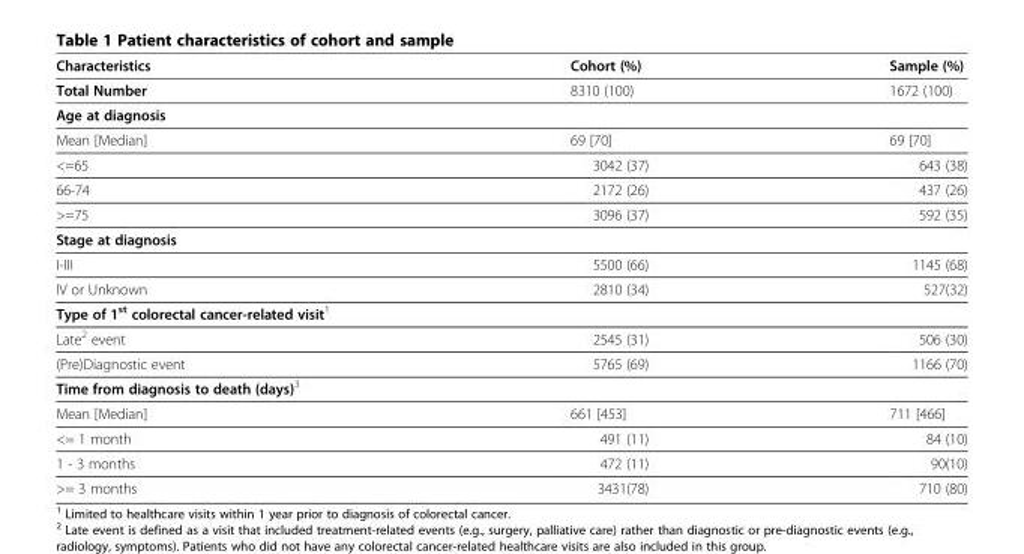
<table><thead><tr><td>Characteristics</td><td>Cohort (%)</td><td>Sample (%)</td></tr></thead><tbody><tr><td>Total Number</td><td>8310 (100)</td><td>1672 (100)</td></tr><tr><td colspan="3">Age at diagnosis</td></tr><tr><td>Mean [Median]</td><td>69 [70]</td><td>69 [70]</td></tr><tr><td>&lt;=65</td><td>3042 (37)</td><td>643 (38)</td></tr><tr><td>66-74</td><td>2172 (26)</td><td>437 (26)</td></tr><tr><td>&gt;=75</td><td>3096 (37)</td><td>592 (35)</td></tr><tr><td colspan="3">Stage at diagnosis</td></tr><tr><td>I-III</td><td>5500 (66)</td><td>1145 (68)</td></tr><tr><td>IV or Unknown</td><td>2810 (34)</td><td>527(32)</td></tr><tr><td colspan="3">Type of 1<sup>st</sup> colorectal cancer-related visit<sup>1</sup></td></tr><tr><td>Late<sup>2</sup> event</td><td>2545 (31)</td><td>506 (30)</td></tr><tr><td>(Pre)Diagnostic event</td><td>5765 (69)</td><td>1166 (70)</td></tr><tr><td colspan="3">Time from diagnosis to death (days)<sup>3</sup></td></tr><tr><td>Mean [Median]</td><td>661 [453]</td><td>711 [466]</td></tr><tr><td>&lt;= 1 month</td><td>491 (11)</td><td>84 (10)</td></tr><tr><td>1 - 3 months</td><td>472 (11)</td><td>90(10)</td></tr><tr><td>&gt;= 3 months</td><td>3431(78)</td><td>710 (80)</td></tr></tbody></table>